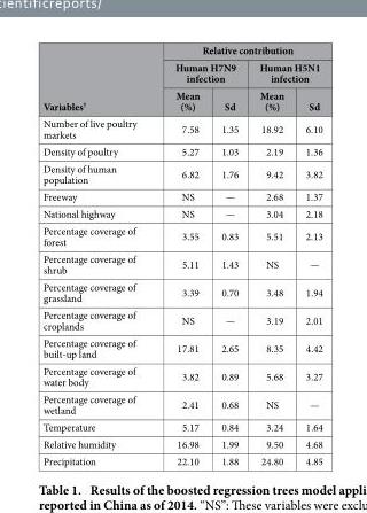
<table><thead><tr><td rowspan="3">Variables†</td><td colspan="4">Relative contribution</td></tr><tr><td colspan="2">Human H7N9 infection</td><td colspan="2">Human H5N1 infection</td></tr><tr><td>Mean (%)</td><td>Sd</td><td>Mean (%)</td><td>Sd</td></tr></thead><tbody><tr><td>Number of live poultry markets</td><td>7.58</td><td>1.35</td><td>18.92</td><td>6.10</td></tr><tr><td>Density of poultry</td><td>5.27</td><td>1.03</td><td>2.19</td><td>1.36</td></tr><tr><td>Density of human population</td><td>6.82</td><td>1.76</td><td>9.42</td><td>3.82</td></tr><tr><td>Freeway</td><td>NS</td><td>—</td><td>2.68</td><td>1.37</td></tr><tr><td>National highway</td><td>NS</td><td>—</td><td>3.04</td><td>2.18</td></tr><tr><td>Percentage coverage of forest</td><td>3.55</td><td>0.83</td><td>5.51</td><td>2.13</td></tr><tr><td>Percentage coverage of shrub</td><td>5.11</td><td>1.43</td><td>NS</td><td>—</td></tr><tr><td>Percentage coverage of grassland</td><td>3.39</td><td>0.70</td><td>3.48</td><td>1.94</td></tr><tr><td>Percentage coverage of croplands</td><td>NS</td><td>—</td><td>3.19</td><td>2.01</td></tr><tr><td>Percentage coverage of built-up land</td><td>17.81</td><td>2.65</td><td>8.35</td><td>4.42</td></tr><tr><td>Percentage coverage of water body</td><td>3.82</td><td>0.89</td><td>5.68</td><td>3.27</td></tr><tr><td>Percentage coverage of wetland</td><td>2.41</td><td>0.68</td><td>NS</td><td>—</td></tr><tr><td>Temperature</td><td>5.17</td><td>0.84</td><td>3.24</td><td>1.64</td></tr><tr><td>Relative humidity</td><td>16.98</td><td>1.99</td><td>9.50</td><td>4.68</td></tr><tr><td>Precipitation</td><td>22.10</td><td>1.88</td><td>24.80</td><td>4.85</td></tr></tbody></table>